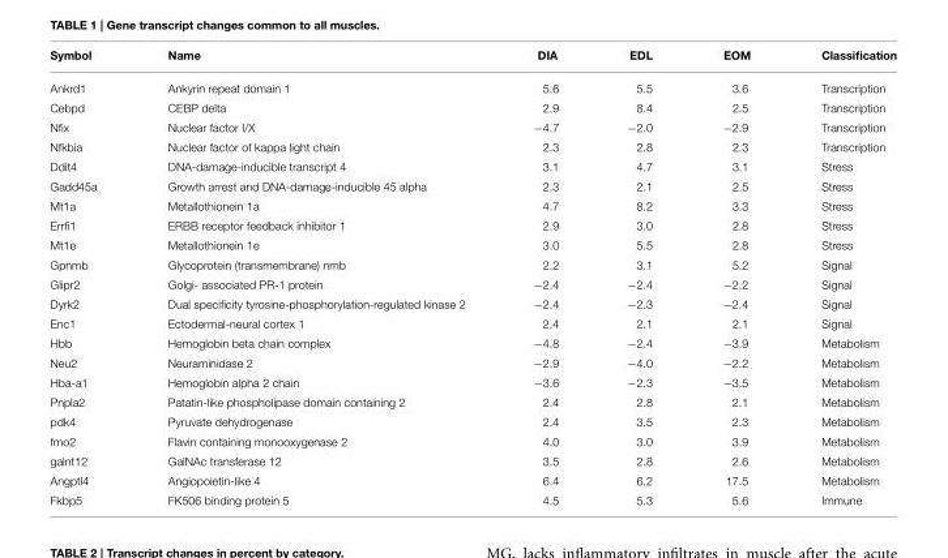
<table><thead><tr><td>Symbol</td><td>Name</td><td>DIA</td><td>EDL</td><td>EOM</td><td>Classification</td></tr></thead><tbody><tr><td>Ankrd1</td><td>Ankyrin repeat domain 1</td><td>5.6</td><td>5.5</td><td>3.6</td><td>Transcription</td></tr><tr><td>Cebpd</td><td>CEBP delta</td><td>2.9</td><td>8.4</td><td>2.5</td><td>Transcription</td></tr><tr><td>Nfix</td><td>Nuclear factor I/X</td><td>−4.7</td><td>−2.0</td><td>−2.9</td><td>Transcription</td></tr><tr><td>Nfkbia</td><td>Nuclear factor of kappa light chain</td><td>2.3</td><td>2.8</td><td>2.3</td><td>Transcription</td></tr><tr><td>Ddit4</td><td>DNA-damage-inducible transcript 4</td><td>3.1</td><td>4.7</td><td>3.1</td><td>Stress</td></tr><tr><td>Gadd45a</td><td>Growth arrest and DNA-damage-inducible 45 alpha</td><td>2.3</td><td>2.1</td><td>2.5</td><td>Stress</td></tr><tr><td>Mt1a</td><td>Metallothionein 1a</td><td>4.7</td><td>8.2</td><td>3.3</td><td>Stress</td></tr><tr><td>Errfi1</td><td>ERBB receptor feedback inhibitor 1</td><td>2.9</td><td>3.0</td><td>2.8</td><td>Stress</td></tr><tr><td>Mt1e</td><td>Metallothionein 1e</td><td>3.0</td><td>5.5</td><td>2.8</td><td>Stress</td></tr><tr><td>Gpnmb</td><td>Glycoprotein (transmembrane) nmb</td><td>2.2</td><td>3.1</td><td>5.2</td><td>Signal</td></tr><tr><td>Glipr2</td><td>Golgi- associated PR-1 protein</td><td>−2.4</td><td>−2.4</td><td>−2.2</td><td>Signal</td></tr><tr><td>Dyrk2</td><td>Dual specificity tyrosine-phosphorylation-regulated kinase 2</td><td>−2.4</td><td>−2.3</td><td>−2.4</td><td>Signal</td></tr><tr><td>Enc1</td><td>Ectodermal-neural cortex 1</td><td>2.4</td><td>2.1</td><td>2.1</td><td>Signal</td></tr><tr><td>Hbb</td><td>Hemoglobin beta chain complex</td><td>−4.8</td><td>−2.4</td><td>−3.9</td><td>Metabolism</td></tr><tr><td>Neu2</td><td>Neuraminidase 2</td><td>−2.9</td><td>−4.0</td><td>−2.2</td><td>Metabolism</td></tr><tr><td>Hba-a1</td><td>Hemoglobin alpha 2 chain</td><td>−3.6</td><td>−2.3</td><td>−3.5</td><td>Metabolism</td></tr><tr><td>Pnpla2</td><td>Patatin-like phospholipase domain containing 2</td><td>2.4</td><td>2.8</td><td>2.1</td><td>Metabolism</td></tr><tr><td>pdk4</td><td>Pyruvate dehydrogenase</td><td>2.4</td><td>3.5</td><td>2.3</td><td>Metabolism</td></tr><tr><td>fmo2</td><td>Flavin containing monooxygenase 2</td><td>4.0</td><td>3.0</td><td>3.9</td><td>Metabolism</td></tr><tr><td>galnt12</td><td>GalNAc transferase 12</td><td>3.5</td><td>2.8</td><td>2.6</td><td>Metabolism</td></tr><tr><td>Angptl4</td><td>Angiopoietin-like 4</td><td>6.4</td><td>6.2</td><td>17.5</td><td>Metabolism</td></tr><tr><td>Fkbp5</td><td>FK506 binding protein 5</td><td>4.5</td><td>5.3</td><td>5.6</td><td>Immune</td></tr></tbody></table>